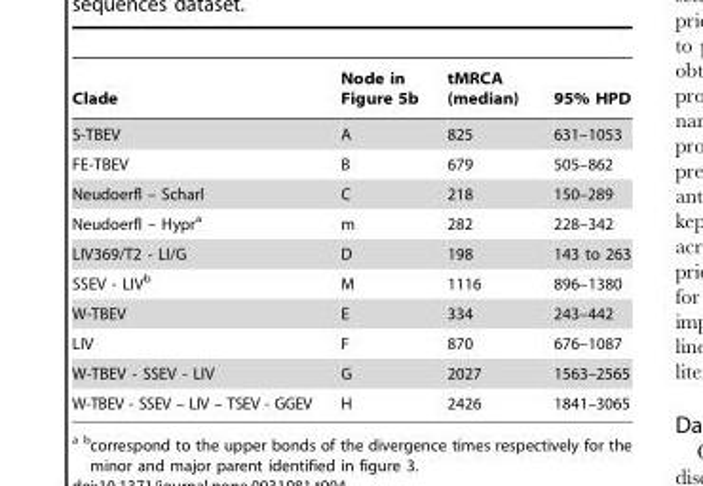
<table><thead><tr><td>Clade</td><td>Node in Figure 5b</td><td>tMRCA (median)</td><td>95% HPD</td></tr></thead><tbody><tr><td>S-TBEV</td><td>A</td><td>825</td><td>631–1053</td></tr><tr><td>FE-TBEV</td><td>B</td><td>679</td><td>505–862</td></tr><tr><td>Neudoerfl – Scharl</td><td>C</td><td>218</td><td>150–289</td></tr><tr><td>Neudoerfl – Hypr<sup>a</sup></td><td>m</td><td>282</td><td>228–342</td></tr><tr><td>LIV369/T2 - LI/G</td><td>D</td><td>198</td><td>143 to 263</td></tr><tr><td>SSEV - LIV<sup>b</sup></td><td>M</td><td>1116</td><td>896–1380</td></tr><tr><td>W-TBEV</td><td>E</td><td>334</td><td>243–442</td></tr><tr><td>LIV</td><td>F</td><td>870</td><td>676–1087</td></tr><tr><td>W-TBEV - SSEV - LIV</td><td>G</td><td>2027</td><td>1563–2565</td></tr><tr><td>W-TBEV - SSEV – LIV – TSEV - GGEV</td><td>H</td><td>2426</td><td>1841–3065</td></tr></tbody></table>